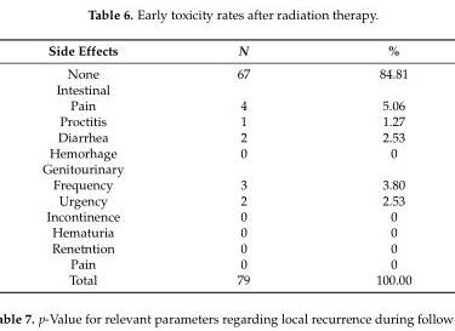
<table><thead><tr><td>Side Effects</td><td>N</td><td>%</td></tr></thead><tbody><tr><td>None</td><td>67</td><td>84.81</td></tr><tr><td colspan="3">Intestinal</td></tr><tr><td>Pain</td><td>4</td><td>5.06</td></tr><tr><td>Proctitis</td><td>1</td><td>1.27</td></tr><tr><td>Diarrhea</td><td>2</td><td>2.53</td></tr><tr><td>Hemorhage</td><td>0</td><td>0</td></tr><tr><td colspan="3">Genitourinary</td></tr><tr><td>Frequency</td><td>3</td><td>3.80</td></tr><tr><td>Urgency</td><td>2</td><td>2.53</td></tr><tr><td>Incontinence</td><td>0</td><td>0</td></tr><tr><td>Hematuria</td><td>0</td><td>0</td></tr><tr><td>Renetntion</td><td>0</td><td>0</td></tr><tr><td>Pain</td><td>0</td><td>0</td></tr><tr><td>Total</td><td>79</td><td>100.00</td></tr></tbody></table>